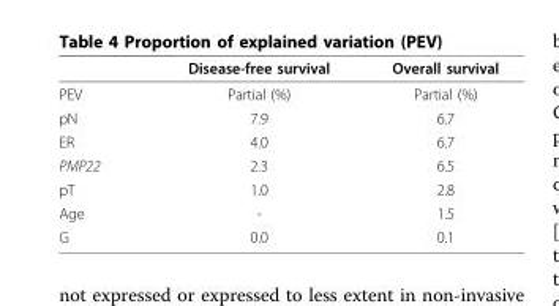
<table><thead><tr><td></td><td>Disease-free survival</td><td>Overall survival</td></tr></thead><tbody><tr><td>PEV</td><td>Partial (%)</td><td>Partial (%)</td></tr><tr><td>pN</td><td>7.9</td><td>6.7</td></tr><tr><td>ER</td><td>4.0</td><td>6.7</td></tr><tr><td>PMP22</td><td>2.3</td><td>6.5</td></tr><tr><td>pT</td><td>1.0</td><td>2.8</td></tr><tr><td>Age</td><td>-</td><td>1.5</td></tr><tr><td>G</td><td>0.0</td><td>0.1</td></tr></tbody></table>